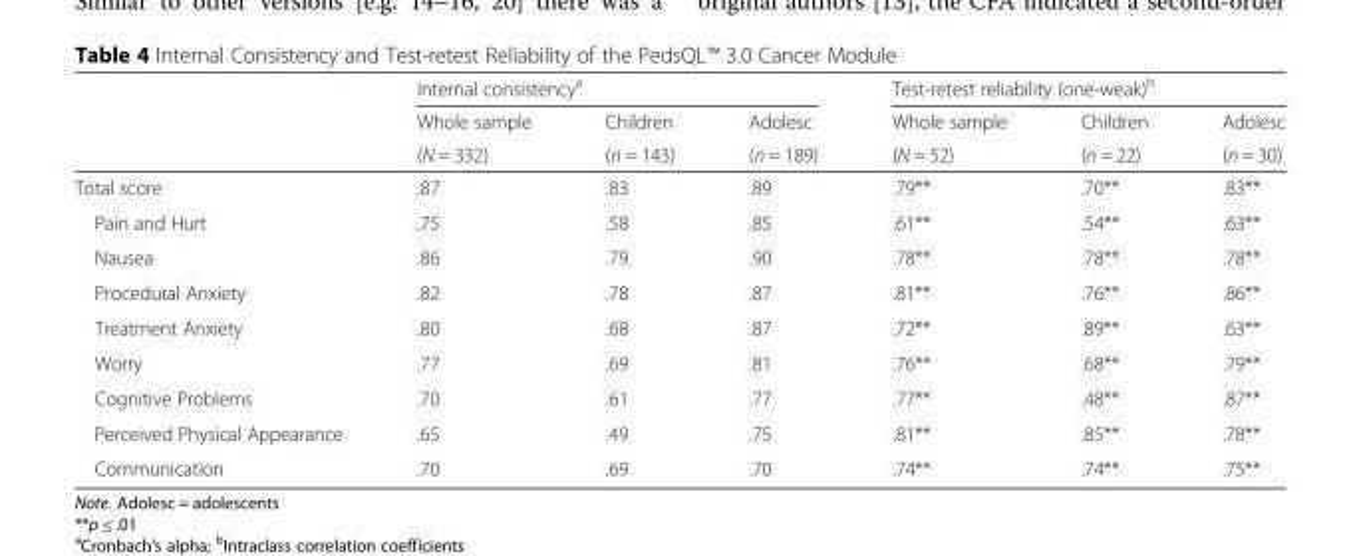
<table><thead><tr><td rowspan="3"></td><td colspan="3">Internal consistency<sup>a</sup></td><td colspan="3">Test-retest reliability (one-weak)<sup>b</sup></td></tr><tr><td rowspan="2">Whole sample (N = 332)</td><td rowspan="2">Children (n = 143)</td><td rowspan="2">Adolesc (n = 189)</td><td rowspan="2">Whole sample (N = 52)</td><td rowspan="2">Children (n = 22)</td><td rowspan="2">Adolesc (n = 30)</td></tr><tr></tr></thead><tbody><tr><td>Total score</td><td>.87</td><td>.83</td><td>.89</td><td>.79**</td><td>.70**</td><td>.83**</td></tr><tr><td>Pain and Hurt</td><td>.75</td><td>.58</td><td>.85</td><td>.61**</td><td>.54**</td><td>.63**</td></tr><tr><td>Nausea</td><td>.86</td><td>.79</td><td>.90</td><td>.78**</td><td>.78**</td><td>.78**</td></tr><tr><td>Procedural Anxiety</td><td>.82</td><td>.78</td><td>.87</td><td>.81**</td><td>.76**</td><td>.86**</td></tr><tr><td>Treatment Anxiety</td><td>.80</td><td>.68</td><td>.87</td><td>.72**</td><td>.89**</td><td>.63**</td></tr><tr><td>Worry</td><td>.77</td><td>.69</td><td>.81</td><td>.76**</td><td>.68**</td><td>.79**</td></tr><tr><td>Cognitive Problems</td><td>.70</td><td>.61</td><td>.77</td><td>.77**</td><td>.48**</td><td>.87**</td></tr><tr><td>Perceived Physical Appearance</td><td>.65</td><td>.49</td><td>.75</td><td>.81**</td><td>.85**</td><td>.78**</td></tr><tr><td>Communication</td><td>.70</td><td>.69</td><td>.70</td><td>.74**</td><td>.74**</td><td>.75**</td></tr></tbody></table>